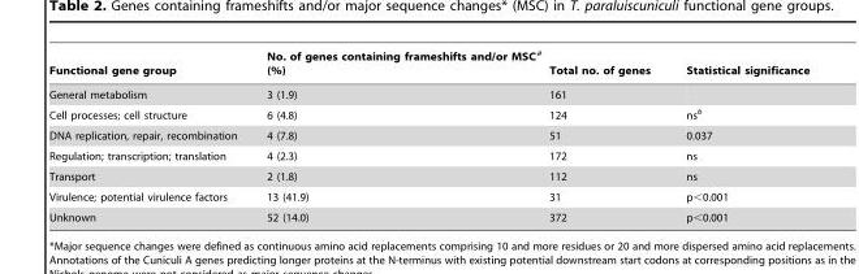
<table><thead><tr><td>Functional gene group</td><td>No. of genes containing frameshifts and/or MSC<sup>a</sup> (%)</td><td>Total no. of genes</td><td>Statistical significance</td></tr></thead><tbody><tr><td>General metabolism</td><td>3 (1.9)</td><td>161</td><td></td></tr><tr><td>Cell processes; cell structure</td><td>6 (4.8)</td><td>124</td><td>ns<sup>b</sup></td></tr><tr><td>DNA replication, repair, recombination</td><td>4 (7.8)</td><td>51</td><td>0.037</td></tr><tr><td>Regulation; transcription; translation</td><td>4 (2.3)</td><td>172</td><td>ns</td></tr><tr><td>Transport</td><td>2 (1.8)</td><td>112</td><td>ns</td></tr><tr><td>Virulence; potential virulence factors</td><td>13 (41.9)</td><td>31</td><td>p&lt;0.001</td></tr><tr><td>Unknown</td><td>52 (14.0)</td><td>372</td><td>p&lt;0.001</td></tr></tbody></table>